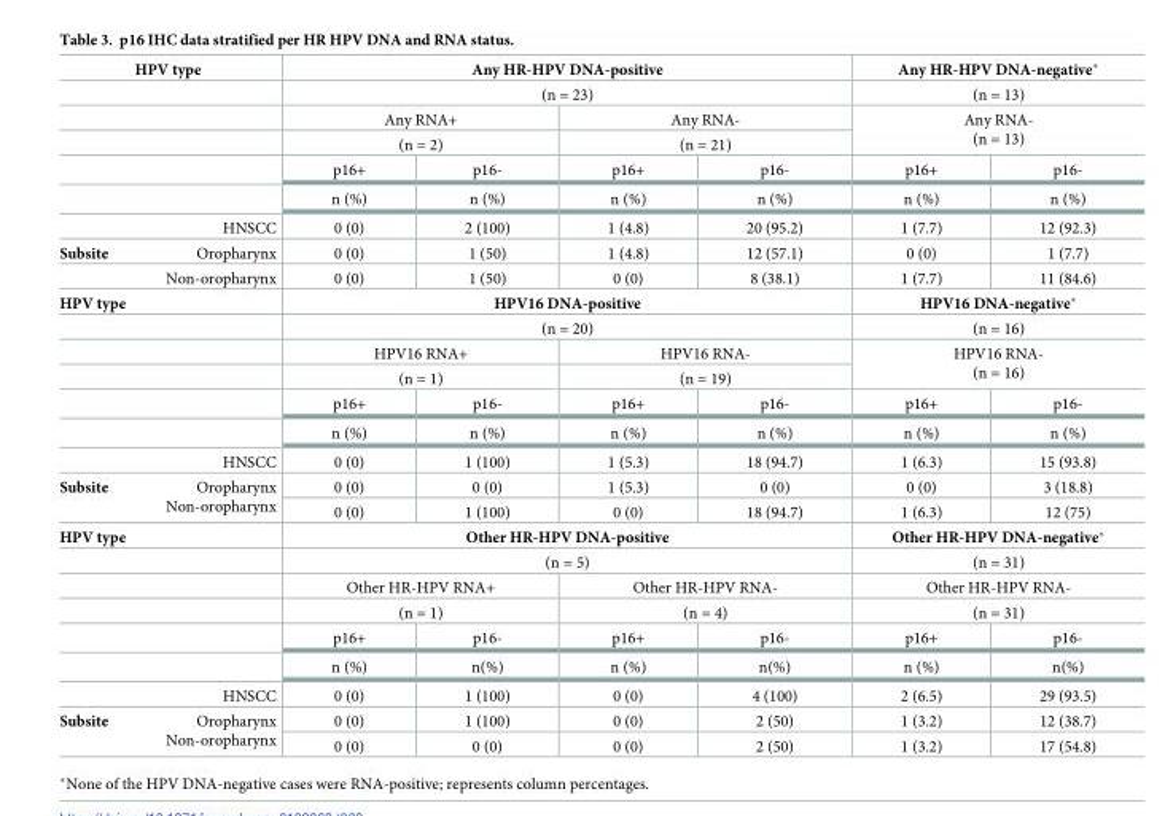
<table><tbody><tr><td rowspan="6">HPV type</td><td colspan="4">Any HR-HPV DNA-positive</td><td colspan="2">Any HR-HPV DNA-negative*</td></tr><tr><td colspan="4">(n = 23)</td><td colspan="2">(n = 13)</td></tr><tr><td colspan="2">Any RNA+</td><td colspan="2">Any RNA-</td><td rowspan="2" colspan="2">Any RNA- (n = 13)</td></tr><tr><td colspan="2">(n = 2)</td><td colspan="2">(n = 21)</td></tr><tr><td>p16+</td><td>p16-</td><td>p16+</td><td>p16-</td><td>p16+</td><td>p16-</td></tr><tr><td>n (%)</td><td>n (%)</td><td>n (%)</td><td>n (%)</td><td>n (%)</td><td>n (%)</td></tr><tr><td>HNSCC</td><td>0 (0)</td><td>2 (100)</td><td>1 (4.8)</td><td>20 (95.2)</td><td>1 (7.7)</td><td>12 (92.3)</td></tr><tr><td>Subsite Oropharynx</td><td>0 (0)</td><td>1 (50)</td><td>1 (4.8)</td><td>12 (57.1)</td><td>0 (0)</td><td>1 (7.7)</td></tr><tr><td>Non-oropharynx</td><td>0 (0)</td><td>1 (50)</td><td>0 (0)</td><td>8 (38.1)</td><td>1 (7.7)</td><td>11 (84.6)</td></tr><tr><td rowspan="6">HPV type</td><td colspan="4">HPV16 DNA-positive</td><td colspan="2">HPV16 DNA-negative*</td></tr><tr><td colspan="4">(n = 20)</td><td colspan="2">(n = 16)</td></tr><tr><td colspan="2">HPV16 RNA+</td><td colspan="2">HPV16 RNA-</td><td rowspan="2" colspan="2">HPV16 RNA- (n = 16)</td></tr><tr><td colspan="2">(n = 1)</td><td colspan="2">(n = 19)</td></tr><tr><td>p16+</td><td>p16-</td><td>p16+</td><td>p16-</td><td>p16+</td><td>p16-</td></tr><tr><td>n (%)</td><td>n (%)</td><td>n (%)</td><td>n (%)</td><td>n (%)</td><td>n (%)</td></tr><tr><td>HNSCC</td><td>0 (0)</td><td>1 (100)</td><td>1 (5.3)</td><td>18 (94.7)</td><td>1 (6.3)</td><td>15 (93.8)</td></tr><tr><td rowspan="2">Subsite Oropharynx Non-oropharynx</td><td>0 (0)</td><td>0 (0)</td><td>1 (5.3)</td><td>0 (0)</td><td>0 (0)</td><td>3 (18.8)</td></tr><tr><td>0 (0)</td><td>1 (100)</td><td>0 (0)</td><td>18 (94.7)</td><td>1 (6.3)</td><td>12 (75)</td></tr><tr><td rowspan="6">HPV type</td><td colspan="4">Other HR-HPV DNA-positive</td><td colspan="2">Other HR-HPV DNA-negative*</td></tr><tr><td colspan="4">(n = 5)</td><td colspan="2">(n = 31)</td></tr><tr><td colspan="2">Other HR-HPV RNA+</td><td colspan="2">Other HR-HPV RNA-</td><td colspan="2">Other HR-HPV RNA-</td></tr><tr><td colspan="2">(n = 1)</td><td colspan="2">(n = 4)</td><td colspan="2">(n = 31)</td></tr><tr><td>p16+</td><td>p16-</td><td>p16+</td><td>p16-</td><td>p16+</td><td>p16-</td></tr><tr><td>n (%)</td><td>n(%)</td><td>n (%)</td><td>n(%)</td><td>n (%)</td><td>n(%)</td></tr><tr><td>HNSCC</td><td>0 (0)</td><td>1 (100)</td><td>0 (0)</td><td>4 (100)</td><td>2 (6.5)</td><td>29 (93.5)</td></tr><tr><td rowspan="2">Subsite Oropharynx Non-oropharynx</td><td>0 (0)</td><td>1 (100)</td><td>0 (0)</td><td>2 (50)</td><td>1 (3.2)</td><td>12 (38.7)</td></tr><tr><td>0 (0)</td><td>0 (0)</td><td>0 (0)</td><td>2 (50)</td><td>1 (3.2)</td><td>17 (54.8)</td></tr></tbody></table>